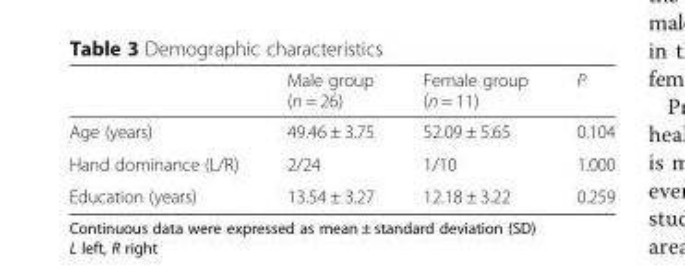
<table><thead><tr><td></td><td>Male group (n = 26)</td><td>Female group (n = 11)</td><td>P</td></tr></thead><tbody><tr><td>Age (years)</td><td>49.46 ± 3.75</td><td>52.09 ± 5.65</td><td>0.104</td></tr><tr><td>Hand dominance (L/R)</td><td>2/24</td><td>1/10</td><td>1.000</td></tr><tr><td>Education (years)</td><td>13.54 ± 3.27</td><td>12.18 ± 3.22</td><td>0.259</td></tr></tbody></table>